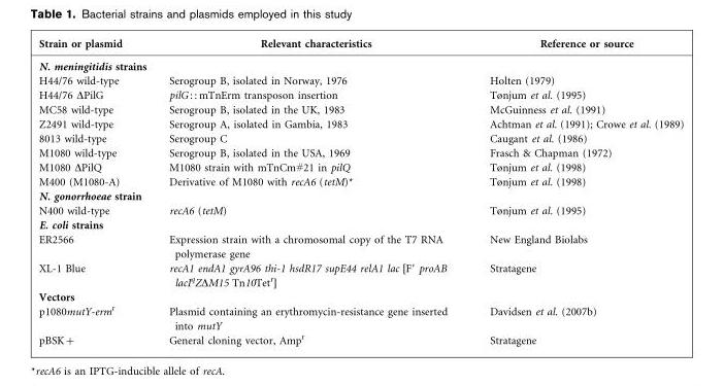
<table><thead><tr><td>Strain or plasmid</td><td>Relevant characteristics</td><td>Reference or source</td></tr></thead><tbody><tr><td colspan="3">N. meningitidis strains</td></tr><tr><td>H44/76 wild-type</td><td>Serogroup B, isolated in Norway, 1976</td><td>Holten (1979)</td></tr><tr><td>H44/76 ΔPilG</td><td>pilG : : mTnErm transposon insertion</td><td>Tønjum et al. (1995)</td></tr><tr><td>MC58 wild-type</td><td>Serogroup B, isolated in the UK, 1983</td><td>McGuinness et al. (1991)</td></tr><tr><td>Z2491 wild-type</td><td>Serogroup A, isolated in Gambia, 1983</td><td>Achtman et al. (1991); Crowe et al. (1989)</td></tr><tr><td>8013 wild-type</td><td>Serogroup C</td><td>Caugant et al. (1986)</td></tr><tr><td>M1080 wild-type</td><td>Serogroup B, isolated in the USA, 1969</td><td>Frasch &amp; Chapman (1972)</td></tr><tr><td>M1080 ΔPilQ</td><td>M1080 strain with mTnCm#21 in pilQ</td><td>Tønjum et al. (1998)</td></tr><tr><td>M400 (M1080-A)</td><td>Derivative of M1080 with recA6 (tetM)*</td><td>Tønjum et al. (1998)</td></tr><tr><td colspan="3">N. gonorrhoeae strain</td></tr><tr><td>N400 wild-type</td><td>recA6 (tetM)</td><td>Tønjum et al. (1995)</td></tr><tr><td colspan="3">E. coli strains</td></tr><tr><td>ER2566</td><td>Expression strain with a chromosomal copy of the T7 RNA polymerase gene</td><td>New England Biolabs</td></tr><tr><td>XL-1 Blue</td><td>recA1 endA1 gyrA96 thi-1 hsdR17 supE44 relA1 lac [F′ proAB lacI<sup>q</sup>ZΔM15 Tn10Tet<sup>r</sup>]</td><td>Stratagene</td></tr><tr><td colspan="3">Vectors</td></tr><tr><td>p1080mutY-erm<sup>r</sup></td><td>Plasmid containing an erythromycin-resistance gene inserted into mutY</td><td>Davidsen et al. (2007b)</td></tr><tr><td>pBSK+</td><td>General cloning vector, Amp<sup>r</sup></td><td>Stratagene</td></tr></tbody></table>